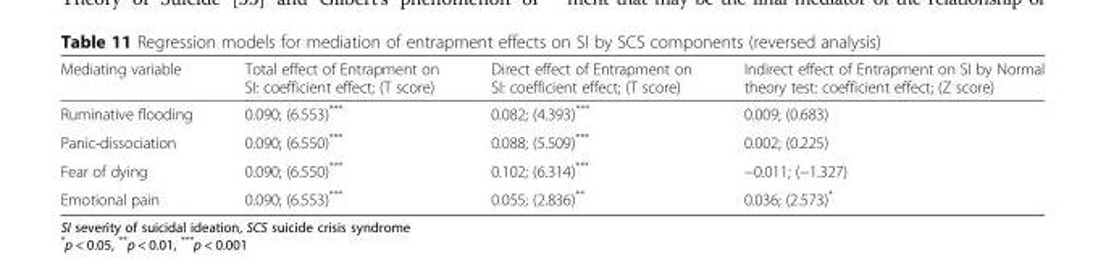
<table><thead><tr><td>Mediating variable</td><td>Total effect of Entrapment on SI: coefficient effect; (T score)</td><td>Direct effect of Entrapment on SI: coefficient effect; (T score)</td><td>Indirect effect of Entrapment on SI by Normal theory test: coefficient effect; (Z score)</td></tr></thead><tbody><tr><td>Ruminative flooding</td><td>0.090; (6.553)***</td><td>0.082; (4.393)***</td><td>0.009; (0.683)</td></tr><tr><td>Panic-dissociation</td><td>0.090; (6.550)***</td><td>0.088; (5.509)***</td><td>0.002; (0.225)</td></tr><tr><td>Fear of dying</td><td>0.090; (6.550)***</td><td>0.102; (6.314)***</td><td>−0.011; (−1.327)</td></tr><tr><td>Emotional pain</td><td>0.090; (6.553)***</td><td>0.055; (2.836)**</td><td>0.036; (2.573)*</td></tr></tbody></table>